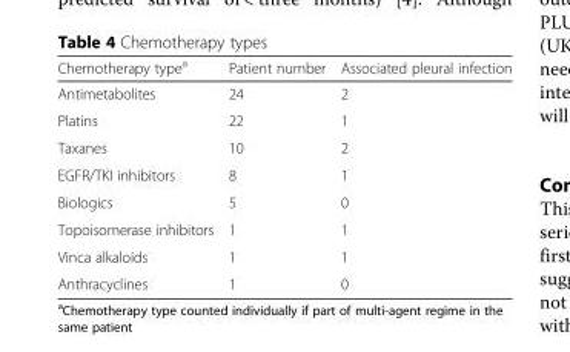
<table><thead><tr><td>Chemotherapy type<sup>a</sup></td><td>Patient number</td><td>Associated pleural infection</td></tr></thead><tbody><tr><td>Antimetabolites</td><td>24</td><td>2</td></tr><tr><td>Platins</td><td>22</td><td>1</td></tr><tr><td>Taxanes</td><td>10</td><td>2</td></tr><tr><td>EGFR/TKI inhibitors</td><td>8</td><td>1</td></tr><tr><td>Biologics</td><td>5</td><td>0</td></tr><tr><td>Topoisomerase inhibitors</td><td>1</td><td>1</td></tr><tr><td>Vinca alkaloids</td><td>1</td><td>1</td></tr><tr><td>Anthracyclines</td><td>1</td><td>0</td></tr></tbody></table>